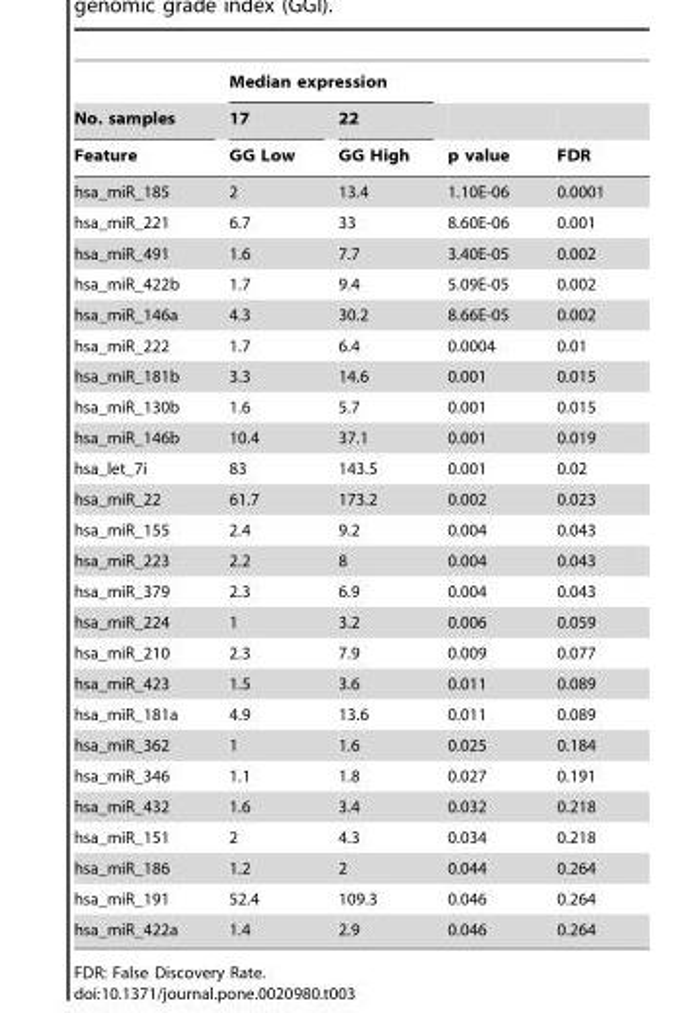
<table><thead><tr><td rowspan="3">No. samples Feature</td><td colspan="2">Median expression</td><td rowspan="3">p value</td><td rowspan="3">FDR</td></tr><tr><td rowspan="2">17 GG Low</td><td rowspan="2">22 GG High</td></tr><tr></tr></thead><tbody><tr><td>hsa_miR_185</td><td>2</td><td>13.4</td><td>1.10E-06</td><td>0.0001</td></tr><tr><td>hsa_miR_221</td><td>6.7</td><td>33</td><td>8.60E-06</td><td>0.001</td></tr><tr><td>hsa_miR_491</td><td>1.6</td><td>7.7</td><td>3.40E-05</td><td>0.002</td></tr><tr><td>hsa_miR_422b</td><td>1.7</td><td>9.4</td><td>5.09E-05</td><td>0.002</td></tr><tr><td>hsa_miR_146a</td><td>4.3</td><td>30.2</td><td>8.66E-05</td><td>0.002</td></tr><tr><td>hsa_miR_222</td><td>1.7</td><td>6.4</td><td>0.0004</td><td>0.01</td></tr><tr><td>hsa_miR_181b</td><td>3.3</td><td>14.6</td><td>0.001</td><td>0.015</td></tr><tr><td>hsa_miR_130b</td><td>1.6</td><td>5.7</td><td>0.001</td><td>0.015</td></tr><tr><td>hsa_miR_146b</td><td>10.4</td><td>37.1</td><td>0.001</td><td>0.019</td></tr><tr><td>hsa_let_7i</td><td>83</td><td>143.5</td><td>0.001</td><td>0.02</td></tr><tr><td>hsa_miR_22</td><td>61.7</td><td>173.2</td><td>0.002</td><td>0.023</td></tr><tr><td>hsa_miR_155</td><td>2.4</td><td>9.2</td><td>0.004</td><td>0.043</td></tr><tr><td>hsa_miR_223</td><td>2.2</td><td>8</td><td>0.004</td><td>0.043</td></tr><tr><td>hsa_miR_379</td><td>2.3</td><td>6.9</td><td>0.004</td><td>0.043</td></tr><tr><td>hsa_miR_224</td><td>1</td><td>3.2</td><td>0.006</td><td>0.059</td></tr><tr><td>hsa_miR_210</td><td>2.3</td><td>7.9</td><td>0.009</td><td>0.077</td></tr><tr><td>hsa_miR_423</td><td>1.5</td><td>3.6</td><td>0.011</td><td>0.089</td></tr><tr><td>hsa_miR_181a</td><td>4.9</td><td>13.6</td><td>0.011</td><td>0.089</td></tr><tr><td>hsa_miR_362</td><td>1</td><td>1.6</td><td>0.025</td><td>0.184</td></tr><tr><td>hsa_miR_346</td><td>1.1</td><td>1.8</td><td>0.027</td><td>0.191</td></tr><tr><td>hsa_miR_432</td><td>1.6</td><td>3.4</td><td>0.032</td><td>0.218</td></tr><tr><td>hsa_miR_151</td><td>2</td><td>4.3</td><td>0.034</td><td>0.218</td></tr><tr><td>hsa_miR_186</td><td>1.2</td><td>2</td><td>0.044</td><td>0.264</td></tr><tr><td>hsa_miR_191</td><td>52.4</td><td>109.3</td><td>0.046</td><td>0.264</td></tr><tr><td>hsa_miR_422a</td><td>1.4</td><td>2.9</td><td>0.046</td><td>0.264</td></tr></tbody></table>